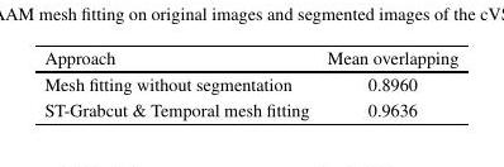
<table><thead><tr><td>Approach</td><td>Mean overlapping</td></tr></thead><tbody><tr><td>Mesh fitting without segmentation</td><td>0.8960</td></tr><tr><td>ST-Grabcut &amp; Temporal mesh fitting</td><td>0.9636</td></tr></tbody></table>